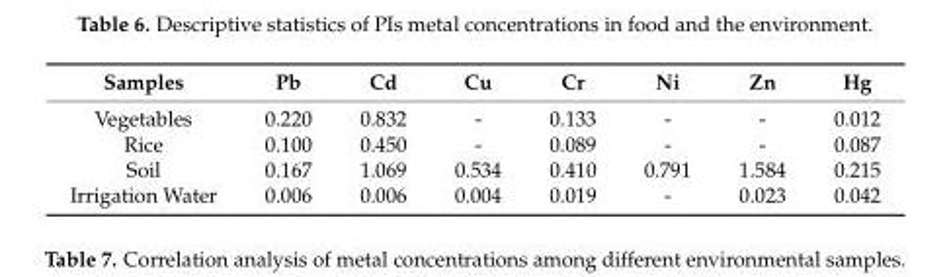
<table><thead><tr><td>Samples</td><td>Pb</td><td>Cd</td><td>Cu</td><td>Cr</td><td>Ni</td><td>Zn</td><td>Hg</td></tr></thead><tbody><tr><td>Vegetables</td><td>0.220</td><td>0.832</td><td>-</td><td>0.133</td><td>-</td><td>-</td><td>0.012</td></tr><tr><td>Rice</td><td>0.100</td><td>0.450</td><td>-</td><td>0.089</td><td>-</td><td>-</td><td>0.087</td></tr><tr><td>Soil</td><td>0.167</td><td>1.069</td><td>0.534</td><td>0.410</td><td>0.791</td><td>1.584</td><td>0.215</td></tr><tr><td>Irrigation Water</td><td>0.006</td><td>0.006</td><td>0.004</td><td>0.019</td><td>-</td><td>0.023</td><td>0.042</td></tr></tbody></table>